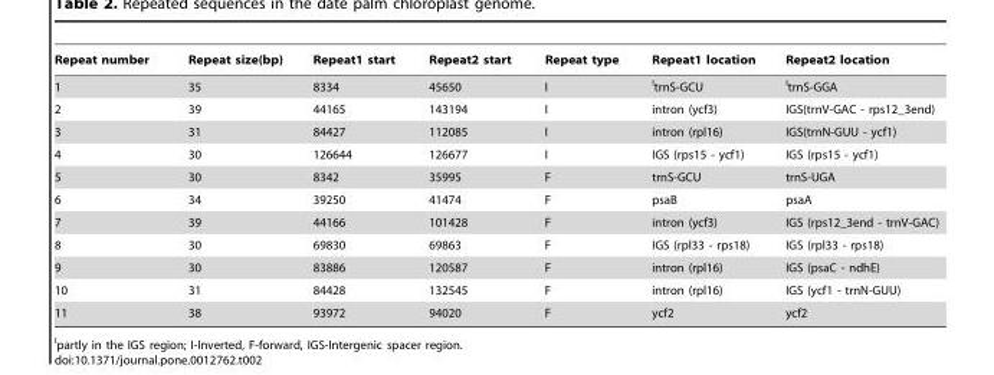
<table><thead><tr><td>Repeat number</td><td>Repeat size(bp)</td><td>Repeat1 start</td><td>Repeat2 start</td><td>Repeat type</td><td>Repeat1 location</td><td>Repeat2 location</td></tr></thead><tbody><tr><td>1</td><td>35</td><td>8334</td><td>45650</td><td>I</td><td>ItrnS-GCU</td><td>ItrnS-GGA</td></tr><tr><td>2</td><td>39</td><td>44165</td><td>143194</td><td>I</td><td>intron (ycf3)</td><td>IGS(trnV-GAC - rps12_3end)</td></tr><tr><td>3</td><td>31</td><td>84427</td><td>112085</td><td>I</td><td>intron (rpl16)</td><td>IGS(trnN-GUU - ycf1)</td></tr><tr><td>4</td><td>30</td><td>126644</td><td>126677</td><td>I</td><td>IGS (rps15 - ycf1)</td><td>IGS (rps15 - ycf1)</td></tr><tr><td>5</td><td>30</td><td>8342</td><td>35995</td><td>F</td><td>trnS-GCU</td><td>trnS-UGA</td></tr><tr><td>6</td><td>34</td><td>39250</td><td>41474</td><td>F</td><td>psaB</td><td>psaA</td></tr><tr><td>7</td><td>39</td><td>44166</td><td>101428</td><td>F</td><td>intron (ycf3)</td><td>IGS (rps12_3end - trnV-GAC)</td></tr><tr><td>8</td><td>30</td><td>69830</td><td>69863</td><td>F</td><td>IGS (rpl33 - rps18)</td><td>IGS (rpl33 - rps18)</td></tr><tr><td>9</td><td>30</td><td>83886</td><td>120587</td><td>F</td><td>intron (rpl16)</td><td>IGS (psaC - ndhE)</td></tr><tr><td>10</td><td>31</td><td>84428</td><td>132545</td><td>F</td><td>intron (rpl16)</td><td>IGS (ycf1 - trnN-GUU)</td></tr><tr><td>11</td><td>38</td><td>93972</td><td>94020</td><td>F</td><td>ycf2</td><td>ycf2</td></tr></tbody></table>